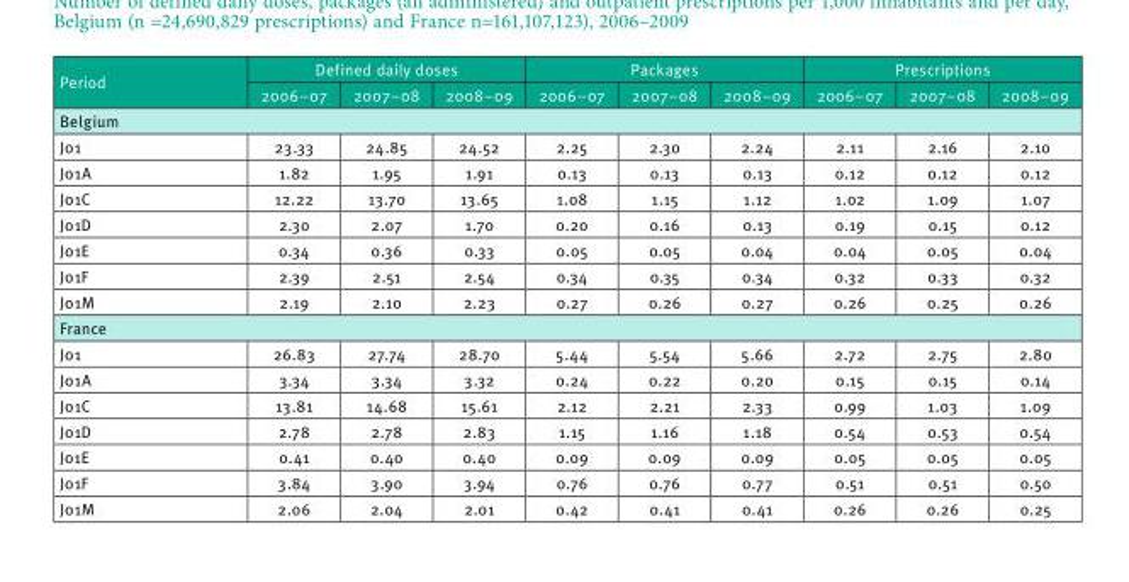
<table><thead><tr><td rowspan="2">Period</td><td colspan="3">Defined daily doses</td><td colspan="3">Packages</td><td colspan="3">Prescriptions</td></tr><tr><td>2006–07</td><td>2007–08</td><td>2008–09</td><td>2006–07</td><td>2007–08</td><td>2008–09</td><td>2006–07</td><td>2007–08</td><td>2008–09</td></tr></thead><tbody><tr><td colspan="10">Belgium</td></tr><tr><td>J01</td><td>23.33</td><td>24.85</td><td>24.52</td><td>2.25</td><td>2.30</td><td>2.24</td><td>2.11</td><td>2.16</td><td>2.10</td></tr><tr><td>J01A</td><td>1.82</td><td>1.95</td><td>1.91</td><td>0.13</td><td>0.13</td><td>0.13</td><td>0.12</td><td>0.12</td><td>0.12</td></tr><tr><td>J01C</td><td>12.22</td><td>13.70</td><td>13.65</td><td>1.08</td><td>1.15</td><td>1.12</td><td>1.02</td><td>1.09</td><td>1.07</td></tr><tr><td>J01D</td><td>2.30</td><td>2.07</td><td>1.70</td><td>0.20</td><td>0.16</td><td>0.13</td><td>0.19</td><td>0.15</td><td>0.12</td></tr><tr><td>J01E</td><td>0.34</td><td>0.36</td><td>0.33</td><td>0.05</td><td>0.05</td><td>0.04</td><td>0.04</td><td>0.05</td><td>0.04</td></tr><tr><td>J01F</td><td>2.39</td><td>2.51</td><td>2.54</td><td>0.34</td><td>0.35</td><td>0.34</td><td>0.32</td><td>0.33</td><td>0.32</td></tr><tr><td>J01M</td><td>2.19</td><td>2.10</td><td>2.23</td><td>0.27</td><td>0.26</td><td>0.27</td><td>0.26</td><td>0.25</td><td>0.26</td></tr><tr><td colspan="10">France</td></tr><tr><td>J01</td><td>26.83</td><td>27.74</td><td>28.70</td><td>5.44</td><td>5.54</td><td>5.66</td><td>2.72</td><td>2.75</td><td>2.80</td></tr><tr><td>J01A</td><td>3.34</td><td>3.34</td><td>3.32</td><td>0.24</td><td>0.22</td><td>0.20</td><td>0.15</td><td>0.15</td><td>0.14</td></tr><tr><td>J01C</td><td>13.81</td><td>14.68</td><td>15.61</td><td>2.12</td><td>2.21</td><td>2.33</td><td>0.99</td><td>1.03</td><td>1.09</td></tr><tr><td>J01D</td><td>2.78</td><td>2.78</td><td>2.83</td><td>1.15</td><td>1.16</td><td>1.18</td><td>0.54</td><td>0.53</td><td>0.54</td></tr><tr><td>J01E</td><td>0.41</td><td>0.40</td><td>0.40</td><td>0.09</td><td>0.09</td><td>0.09</td><td>0.05</td><td>0.05</td><td>0.05</td></tr><tr><td>J01F</td><td>3.84</td><td>3.90</td><td>3.94</td><td>0.76</td><td>0.76</td><td>0.77</td><td>0.51</td><td>0.51</td><td>0.50</td></tr><tr><td>J01M</td><td>2.06</td><td>2.04</td><td>2.01</td><td>0.42</td><td>0.41</td><td>0.41</td><td>0.26</td><td>0.26</td><td>0.25</td></tr></tbody></table>